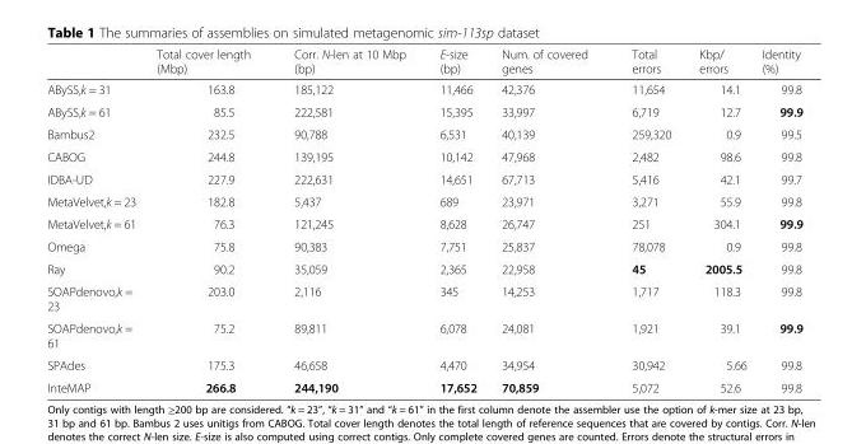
<table><thead><tr><td></td><td>Total cover length (Mbp)</td><td>Corr. N-len at 10 Mbp (bp)</td><td>E-size (bp)</td><td>Num. of covered genes</td><td>Total errors</td><td>Kbp/ errors</td><td>Identity (%)</td></tr></thead><tbody><tr><td>ABySS,k = 31</td><td>163.8</td><td>185,122</td><td>11,466</td><td>42,376</td><td>11,654</td><td>14.1</td><td>99.8</td></tr><tr><td>ABySS,k = 61</td><td>85.5</td><td>222,581</td><td>15,395</td><td>33,997</td><td>6,719</td><td>12.7</td><td>99.9</td></tr><tr><td>Bambus2</td><td>232.5</td><td>90,788</td><td>6,531</td><td>40,139</td><td>259,320</td><td>0.9</td><td>99.5</td></tr><tr><td>CABOG</td><td>244.8</td><td>139,195</td><td>10,142</td><td>47,968</td><td>2,482</td><td>98.6</td><td>99.8</td></tr><tr><td>IDBA-UD</td><td>227.9</td><td>222,631</td><td>14,651</td><td>67,713</td><td>5,416</td><td>42.1</td><td>99.7</td></tr><tr><td>MetaVelvet,k = 23</td><td>182.8</td><td>5,437</td><td>689</td><td>23,971</td><td>3,271</td><td>55.9</td><td>99.8</td></tr><tr><td>MetaVelvet,k = 61</td><td>76.3</td><td>121,245</td><td>8,628</td><td>26,747</td><td>251</td><td>304.1</td><td>99.9</td></tr><tr><td>Omega</td><td>75.8</td><td>90,383</td><td>7,751</td><td>25,837</td><td>78,078</td><td>0.9</td><td>99.8</td></tr><tr><td>Ray</td><td>90.2</td><td>35,059</td><td>2,365</td><td>22,958</td><td>45</td><td>2005.5</td><td>99.8</td></tr><tr><td>SOAPdenovo,k = 23</td><td>203.0</td><td>2,116</td><td>345</td><td>14,253</td><td>1,717</td><td>118.3</td><td>99.8</td></tr><tr><td>SOAPdenovo,k = 61</td><td>75.2</td><td>89,811</td><td>6,078</td><td>24,081</td><td>1,921</td><td>39.1</td><td>99.9</td></tr><tr><td>SPAdes</td><td>175.3</td><td>46,658</td><td>4,470</td><td>34,954</td><td>30,942</td><td>5.66</td><td>99.8</td></tr><tr><td>InteMAP</td><td>266.8</td><td>244,190</td><td>17,652</td><td>70,859</td><td>5,072</td><td>52.6</td><td>99.8</td></tr></tbody></table>